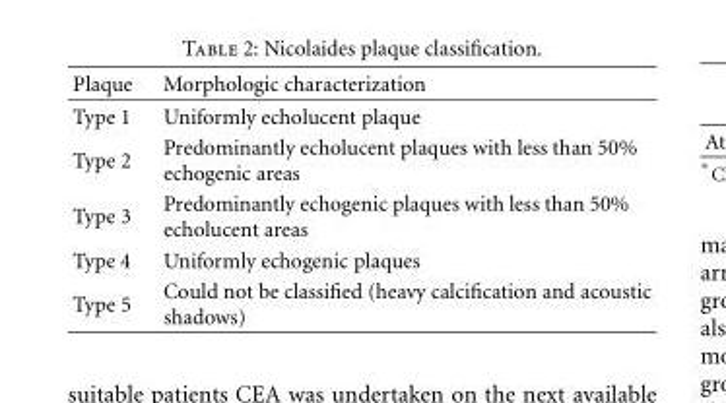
<table><thead><tr><td>Plaque</td><td>Morphologic characterization</td></tr></thead><tbody><tr><td>Type 1</td><td>Uniformly echolucent plaque</td></tr><tr><td>Type 2</td><td>Predominantly echolucent plaques with less than 50% echogenic areas</td></tr><tr><td>Type 3</td><td>Predominantly echogenic plaques with less than 50% echolucent areas</td></tr><tr><td>Type 4</td><td>Uniformly echogenic plaques</td></tr><tr><td>Type 5</td><td>Could not be classified (heavy calcification and acoustic shadows)</td></tr></tbody></table>